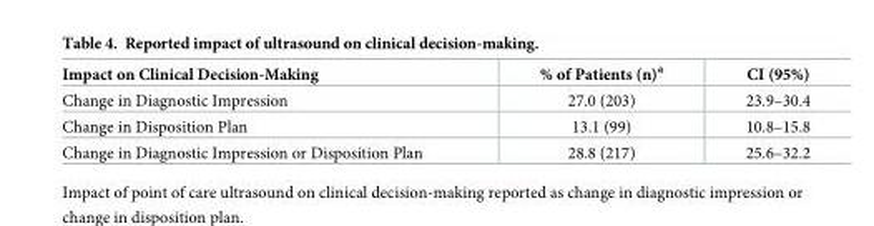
<table><thead><tr><td>Impact on Clinical Decision-Making</td><td>% of Patients (n)<sup>a</sup></td><td>CI (95%)</td></tr></thead><tbody><tr><td>Change in Diagnostic Impression</td><td>27.0 (203)</td><td>23.9–30.4</td></tr><tr><td>Change in Disposition Plan</td><td>13.1 (99)</td><td>10.8–15.8</td></tr><tr><td>Change in Diagnostic Impression or Disposition Plan</td><td>28.8 (217)</td><td>25.6–32.2</td></tr></tbody></table>